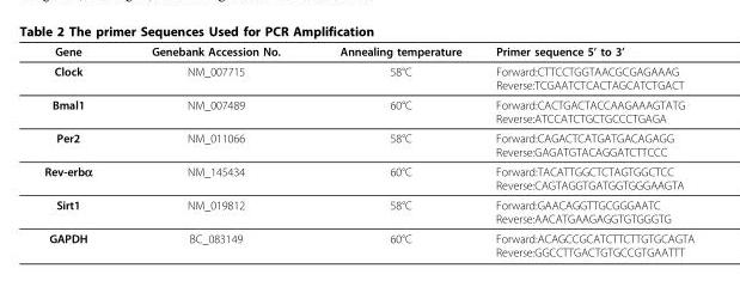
<table><thead><tr><td>Gene</td><td>Genebank Accession No.</td><td>Annealing temperature</td><td>Primer sequence 5’ to 3’</td></tr></thead><tbody><tr><td>Clock</td><td>NM_007715</td><td>58°C</td><td>Forward:CTTCCTGGTAACGCGAGAAAG Reverse:TCGAATCTCACTAGCATCTGACT</td></tr><tr><td>Bmal1</td><td>NM_007489</td><td>60°C</td><td>Forward:CACTGACTACCAAGAAAGTATG Reverse:ATCCATCTGCTGCCCTGAGA</td></tr><tr><td>Per2</td><td>NM_011066</td><td>58°C</td><td>Forward:CAGACTCATGATGACAGAGG Reverse:GAGATGTACAGGATCTTCCC</td></tr><tr><td>Rev-erbα</td><td>NM_145434</td><td>60°C</td><td>Forward:TACATTGGCTCTAGTGGCTCC Reverse:CAGTAGGTGATGGTGGGAAGTA</td></tr><tr><td>Sirt1</td><td>NM_019812</td><td>58°C</td><td>Forward:GAACAGGTTGCGGGAATC Reverse:AACATGAAGAGGTGTGGGTG</td></tr><tr><td>GAPDH</td><td>BC_083149</td><td>60°C</td><td>Forward:ACAGCCGCATCTTCTTGTGCAGTA Reverse:GGCCTTGACTGTGCCGTGAATTT</td></tr></tbody></table>